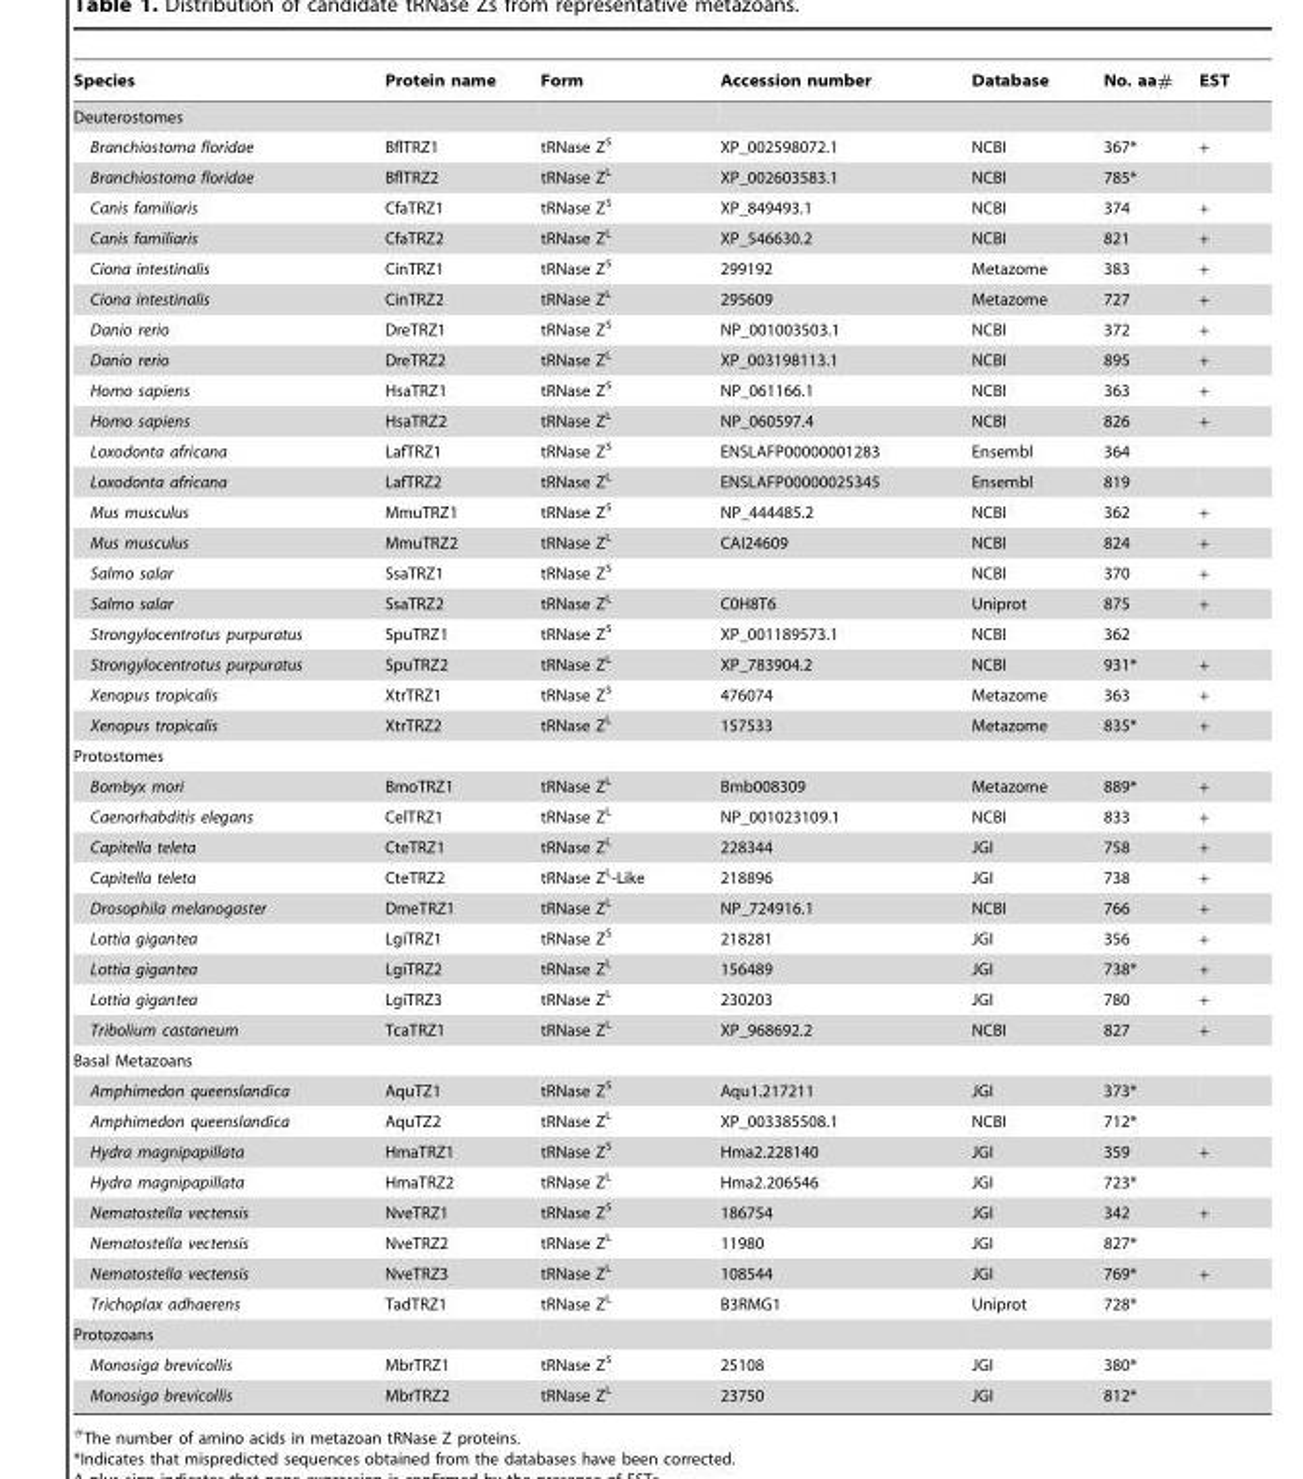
<table><thead><tr><td>Species</td><td>Protein name</td><td>Form</td><td>Accession number</td><td>Database</td><td>No. aa#</td><td>EST</td></tr></thead><tbody><tr><td colspan="7">Deuterostomes</td></tr><tr><td>Branchiostoma floridae</td><td>BflTRZ1</td><td>tRNase Z<sup>S</sup></td><td>XP_002598072.1</td><td>NCBI</td><td>367*</td><td>+</td></tr><tr><td>Branchiostoma floridae</td><td>BflTRZ2</td><td>tRNase Z<sup>L</sup></td><td>XP_002603583.1</td><td>NCBI</td><td>785*</td><td></td></tr><tr><td>Canis familiaris</td><td>CfaTRZ1</td><td>tRNase Z<sup>S</sup></td><td>XP_849493.1</td><td>NCBI</td><td>374</td><td>+</td></tr><tr><td>Canis familiaris</td><td>CfaTRZ2</td><td>tRNase Z<sup>L</sup></td><td>XP_546630.2</td><td>NCBI</td><td>821</td><td>+</td></tr><tr><td>Ciona intestinalis</td><td>CinTRZ1</td><td>tRNase Z<sup>S</sup></td><td>299192</td><td>Metazome</td><td>383</td><td>+</td></tr><tr><td>Ciona intestinalis</td><td>CinTRZ2</td><td>tRNase Z<sup>L</sup></td><td>295609</td><td>Metazome</td><td>727</td><td>+</td></tr><tr><td>Danio rerio</td><td>DreTRZ1</td><td>tRNase Z<sup>S</sup></td><td>NP_001003503.1</td><td>NCBI</td><td>372</td><td>+</td></tr><tr><td>Danio rerio</td><td>DreTRZ2</td><td>tRNase Z<sup>L</sup></td><td>XP_003198113.1</td><td>NCBI</td><td>895</td><td>+</td></tr><tr><td>Homo sapiens</td><td>HsaTRZ1</td><td>tRNase Z<sup>S</sup></td><td>NP_061166.1</td><td>NCBI</td><td>363</td><td>+</td></tr><tr><td>Homo sapiens</td><td>HsaTRZ2</td><td>tRNase Z<sup>L</sup></td><td>NP_060597.4</td><td>NCBI</td><td>826</td><td>+</td></tr><tr><td>Loxodonta africana</td><td>LafTRZ1</td><td>tRNase Z<sup>S</sup></td><td>ENSLAFP00000001283</td><td>Ensembl</td><td>364</td><td></td></tr><tr><td>Loxodonta africana</td><td>LafTRZ2</td><td>tRNase Z<sup>L</sup></td><td>ENSLAFP00000025345</td><td>Ensembl</td><td>819</td><td></td></tr><tr><td>Mus musculus</td><td>MmuTRZ1</td><td>tRNase Z<sup>S</sup></td><td>NP_444485.2</td><td>NCBI</td><td>362</td><td>+</td></tr><tr><td>Mus musculus</td><td>MmuTRZ2</td><td>tRNase Z<sup>L</sup></td><td>CAI24609</td><td>NCBI</td><td>824</td><td>+</td></tr><tr><td>Salmo salar</td><td>SsaTRZ1</td><td>tRNase Z<sup>S</sup></td><td></td><td>NCBI</td><td>370</td><td>+</td></tr><tr><td>Salmo salar</td><td>SsaTRZ2</td><td>tRNase Z<sup>L</sup></td><td>C0H8T6</td><td>Uniprot</td><td>875</td><td>+</td></tr><tr><td>Strongylocentrotus purpuratus</td><td>SpuTRZ1</td><td>tRNase Z<sup>S</sup></td><td>XP_001189573.1</td><td>NCBI</td><td>362</td><td></td></tr><tr><td>Strongylocentrotus purpuratus</td><td>SpuTRZ2</td><td>tRNase Z<sup>L</sup></td><td>XP_783904.2</td><td>NCBI</td><td>931*</td><td>+</td></tr><tr><td>Xenopus tropicalis</td><td>XtrTRZ1</td><td>tRNase Z<sup>S</sup></td><td>476074</td><td>Metazome</td><td>363</td><td>+</td></tr><tr><td>Xenopus tropicalis</td><td>XtrTRZ2</td><td>tRNase Z<sup>L</sup></td><td>157533</td><td>Metazome</td><td>835*</td><td>+</td></tr><tr><td colspan="7">Protostomes</td></tr><tr><td>Bombyx mori</td><td>BmoTRZ1</td><td>tRNase Z<sup>L</sup></td><td>Bmb008309</td><td>Metazome</td><td>889*</td><td>+</td></tr><tr><td>Caenorhabditis elegans</td><td>CelTRZ1</td><td>tRNase Z<sup>L</sup></td><td>NP_001023109.1</td><td>NCBI</td><td>833</td><td>+</td></tr><tr><td>Capitella teleta</td><td>CteTRZ1</td><td>tRNase Z<sup>L</sup></td><td>228344</td><td>JGI</td><td>758</td><td>+</td></tr><tr><td>Capitella teleta</td><td>CteTRZ2</td><td>tRNase Z<sup>L</sup>-Like</td><td>218896</td><td>JGI</td><td>738</td><td>+</td></tr><tr><td>Drosophila melanogaster</td><td>DmeTRZ1</td><td>tRNase Z<sup>L</sup></td><td>NP_724916.1</td><td>NCBI</td><td>766</td><td>+</td></tr><tr><td>Lottia gigantea</td><td>LgiTRZ1</td><td>tRNase Z<sup>S</sup></td><td>218281</td><td>JGI</td><td>356</td><td>+</td></tr><tr><td>Lottia gigantea</td><td>LgiTRZ2</td><td>tRNase Z<sup>L</sup></td><td>156489</td><td>JGI</td><td>738*</td><td>+</td></tr><tr><td>Lottia gigantea</td><td>LgiTRZ3</td><td>tRNase Z<sup>L</sup></td><td>230203</td><td>JGI</td><td>780</td><td>+</td></tr><tr><td>Tribolium castaneum</td><td>TcaTRZ1</td><td>tRNase Z<sup>L</sup></td><td>XP_968692.2</td><td>NCBI</td><td>827</td><td>+</td></tr><tr><td colspan="7">Basal Metazoans</td></tr><tr><td>Amphimedon queenslandica</td><td>AquTZ1</td><td>tRNase Z<sup>S</sup></td><td>Aqu1.217211</td><td>JGI</td><td>373*</td><td></td></tr><tr><td>Amphimedon queenslandica</td><td>AquTZ2</td><td>tRNase Z<sup>L</sup></td><td>XP_003385508.1</td><td>NCBI</td><td>712*</td><td></td></tr><tr><td>Hydra magnipapillata</td><td>HmaTRZ1</td><td>tRNase Z<sup>S</sup></td><td>Hma2.228140</td><td>JGI</td><td>359</td><td>+</td></tr><tr><td>Hydra magnipapillata</td><td>HmaTRZ2</td><td>tRNase Z<sup>L</sup></td><td>Hma2.206546</td><td>JGI</td><td>723*</td><td></td></tr><tr><td>Nematostella vectensis</td><td>NveTRZ1</td><td>tRNase Z<sup>S</sup></td><td>186754</td><td>JGI</td><td>342</td><td>+</td></tr><tr><td>Nematostella vectensis</td><td>NveTRZ2</td><td>tRNase Z<sup>L</sup></td><td>11980</td><td>JGI</td><td>827*</td><td></td></tr><tr><td>Nematostella vectensis</td><td>NveTRZ3</td><td>tRNase Z<sup>L</sup></td><td>108544</td><td>JGI</td><td>769*</td><td>+</td></tr><tr><td>Trichoplax adhaerens</td><td>TadTRZ1</td><td>tRNase Z<sup>L</sup></td><td>B3RMG1</td><td>Uniprot</td><td>728*</td><td></td></tr><tr><td colspan="7">Protozoans</td></tr><tr><td>Monosiga brevicollis</td><td>MbrTRZ1</td><td>tRNase Z<sup>S</sup></td><td>25108</td><td>JGI</td><td>380*</td><td></td></tr><tr><td>Monosiga brevicollis</td><td>MbrTRZ2</td><td>tRNase Z<sup>L</sup></td><td>23750</td><td>JGI</td><td>812*</td><td></td></tr></tbody></table>